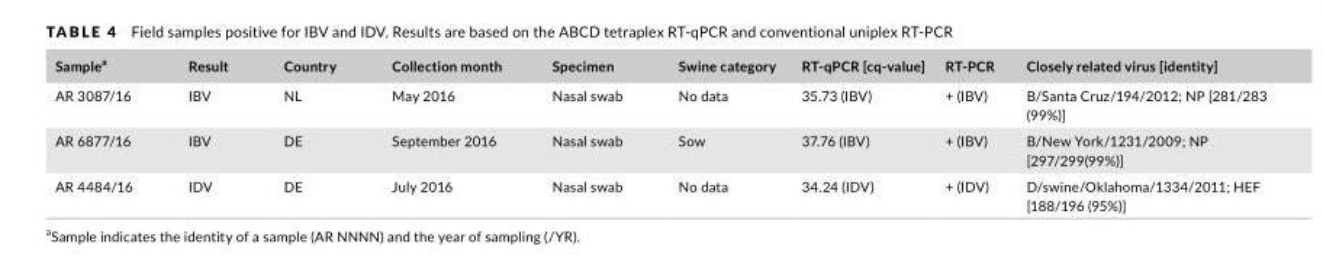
<table><thead><tr><td>Sample<sup>a</sup></td><td>Result</td><td>Country</td><td>Collection month</td><td>Specimen</td><td>Swine category</td><td>RT- qPCR [cq- value]</td><td>RT- PCR</td><td>Closely related virus [identity]</td></tr></thead><tbody><tr><td>AR 3087/16</td><td>IBV</td><td>NL</td><td>May 2016</td><td>Nasal swab</td><td>No data</td><td>35.73 (IBV)</td><td>+ (IBV)</td><td>B/Santa Cruz/194/2012; NP [281/283 (99%)]</td></tr><tr><td>AR 6877/16</td><td>IBV</td><td>DE</td><td>September 2016</td><td>Nasal swab</td><td>Sow</td><td>37.76 (IBV)</td><td>+ (IBV)</td><td>B/New York/1231/2009; NP [297/299(99%)]</td></tr><tr><td>AR 4484/16</td><td>IDV</td><td>DE</td><td>July 2016</td><td>Nasal swab</td><td>No data</td><td>34.24 (IDV)</td><td>+ (IDV)</td><td>D/swine/Oklahoma/1334/2011; HEF [188/196 (95%)]</td></tr></tbody></table>